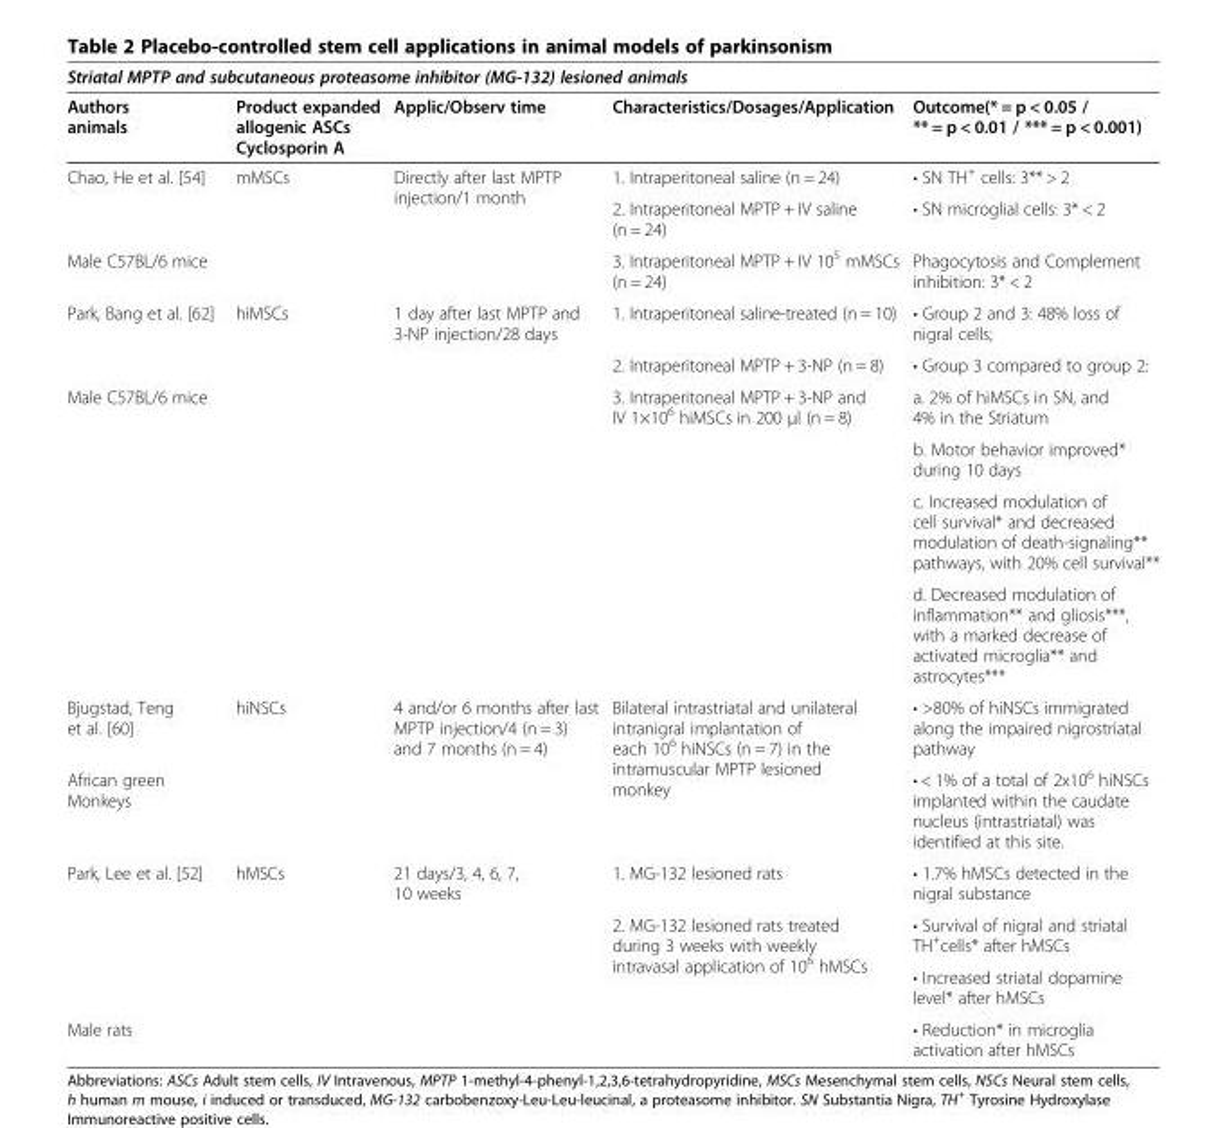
<table><thead><tr><td colspan="5">Striatal MPTP and subcutaneous proteasome inhibitor (MG-132) lesioned animals</td></tr><tr><td>Authors animals</td><td>Product expanded allogenic ASCs Cyclosporin A</td><td>Applic/Observ time</td><td>Characteristics/Dosages/Application</td><td>Outcome(* = p &lt; 0.05 / ** = p &lt; 0.01 / *** = p &lt; 0.001)</td></tr></thead><tbody><tr><td rowspan="2">Chao, He et al. [54]</td><td rowspan="3">mMSCs</td><td rowspan="3">Directly after last MPTP injection/1 month</td><td>1. Intraperitoneal saline (n = 24)</td><td>• SN TH<sup>+</sup> cells: 3** &gt; 2</td></tr><tr><td>2. Intraperitoneal MPTP + IV saline (n = 24)</td><td>• SN microglial cells: 3* &lt; 2</td></tr><tr><td>Male C57BL/6 mice</td><td>3. Intraperitoneal MPTP + IV 10<sup>5</sup> mMSCs (n = 24)</td><td>Phagocytosis and Complement inhibition: 3* &lt; 2</td></tr><tr><td rowspan="2">Park, Bang et al. [62]</td><td rowspan="2">hiMSCs</td><td rowspan="2">1 day after last MPTP and 3-NP injection/28 days</td><td>1. Intraperitoneal saline-treated (n = 10)</td><td>• Group 2 and 3: 48% loss of nigral cells;</td></tr><tr><td>2. Intraperitoneal MPTP + 3-NP (n = 8)</td><td>• Group 3 compared to group 2:</td></tr><tr><td rowspan="4">Male C57BL/6 mice</td><td rowspan="4"></td><td rowspan="4"></td><td rowspan="4">3. Intraperitoneal MPTP + 3-NP and IV 1×10<sup>6</sup> hiMSCs in 200 μl (n = 8)</td><td>a. 2% of hiMSCs in SN, and 4% in the Striatum</td></tr><tr><td>b. Motor behavior improved* during 10 days</td></tr><tr><td>c. Increased modulation of cell survival* and decreased modulation of death-signaling** pathways, with 20% cell survival**</td></tr><tr><td>d. Decreased modulation of inflammation** and gliosis***, with a marked decrease of activated microglia** and astrocytes***</td></tr><tr><td>Bjugstad, Teng et al. [60]</td><td rowspan="2">hiNSCs</td><td rowspan="2">4 and/or 6 months after last MPTP injection/4 (n = 3) and 7 months (n = 4)</td><td rowspan="2">Bilateral intrastriatal and unilateral intranigral implantation of each 10<sup>6</sup> hiNSCs (n = 7) in the intramuscular MPTP lesioned monkey</td><td>• &gt;80% of hiNSCs immigrated along the impaired nigrostriatal pathway</td></tr><tr><td>African green Monkeys</td><td>• &lt; 1% of a total of 2x10<sup>6</sup> hiNSCs implanted within the caudate nucleus (intrastriatal) was identified at this site.</td></tr><tr><td rowspan="3">Park, Lee et al. [52]</td><td rowspan="4">hMSCs</td><td rowspan="4">21 days/3, 4, 6, 7, 10 weeks</td><td>1. MG-132 lesioned rats</td><td>• 1.7% hMSCs detected in the nigral substance</td></tr><tr><td rowspan="3">2. MG-132 lesioned rats treated during 3 weeks with weekly intravasal application of 10<sup>6</sup> hMSCs</td><td>• Survival of nigral and striatal TH<sup>+</sup>cells* after hMSCs</td></tr><tr><td>• Increased striatal dopamine level* after hMSCs</td></tr><tr><td>Male rats</td><td>• Reduction* in microglia activation after hMSCs</td></tr></tbody></table>